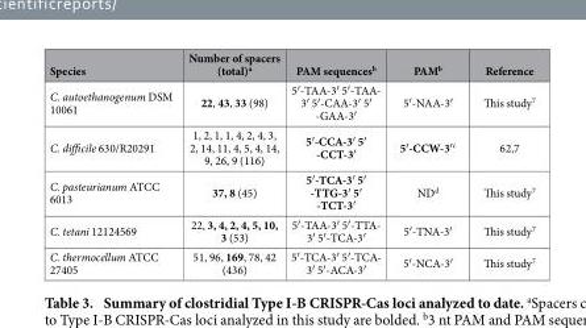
<table><thead><tr><td>Species</td><td>Number of spacers (total)<sup>a</sup></td><td>PAM sequences<sup>b</sup></td><td>PAM<sup>b</sup></td><td>Reference</td></tr></thead><tbody><tr><td>C. autoethanogenum DSM 10061</td><td>22, 43, 33 (98)</td><td>5′ -TAA-3′ 5′ -TAA- 3′ 5′ -CAA-3′ 5′ -GAA-3′</td><td>5′ -NAA-3′</td><td>This study<sup>7</sup></td></tr><tr><td>C. difficile 630/R20291</td><td>1, 2, 1, 1, 4, 2, 4, 3, 2, 14, 11, 4, 5, 4, 14, 9, 26, 9 (116)</td><td>5′ -CCA-3′ 5′ -CCT-3′</td><td>5′ -CCW-3′ <sup>c</sup></td><td>62,7</td></tr><tr><td>C. pasteurianum ATCC 6013</td><td>37, 8 (45)</td><td>5′ -TCA-3′ 5′ -TTG-3′ 5′ -TCT-3′</td><td>ND<sup>d</sup></td><td>This study<sup>7</sup></td></tr><tr><td>C. tetani 12124569</td><td>22, 3, 4, 2, 4, 5, 10, 3 (53)</td><td>5′ -TAA-3′ 5′ -TTA- 3′ 5′ -TCA-3′</td><td>5′ -TNA-3′</td><td>This study<sup>7</sup></td></tr><tr><td>C. thermocellum ATCC 27405</td><td>51, 96, 169, 78, 42 (436)</td><td>5′ -TCA-3′ 5′ -TCA- 3′ 5′ -ACA-3′</td><td>5′ -NCA-3′</td><td>This study<sup>7</sup></td></tr></tbody></table>